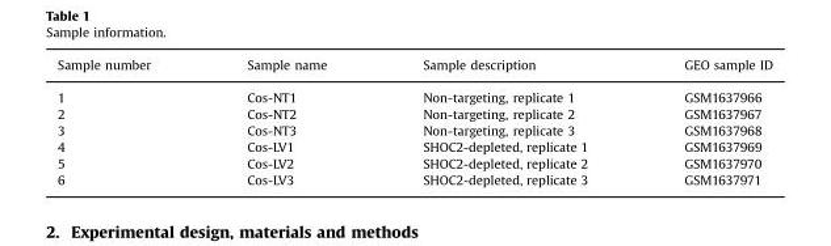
<table><thead><tr><td>Sample number</td><td>Sample name</td><td>Sample description</td><td>GEO sample ID</td></tr></thead><tbody><tr><td>1</td><td>Cos-NT1</td><td>Non-targeting, replicate 1</td><td>GSM1637966</td></tr><tr><td>2</td><td>Cos-NT2</td><td>Non-targeting, replicate 2</td><td>GSM1637967</td></tr><tr><td>3</td><td>Cos-NT3</td><td>Non-targeting, replicate 3</td><td>GSM1637968</td></tr><tr><td>4</td><td>Cos-LV1</td><td>SHOC2-depleted, replicate 1</td><td>GSM1637969</td></tr><tr><td>5</td><td>Cos-LV2</td><td>SHOC2-depleted, replicate 2</td><td>GSM1637970</td></tr><tr><td>6</td><td>Cos-LV3</td><td>SHOC2-depleted, replicate 3</td><td>GSM1637971</td></tr></tbody></table>